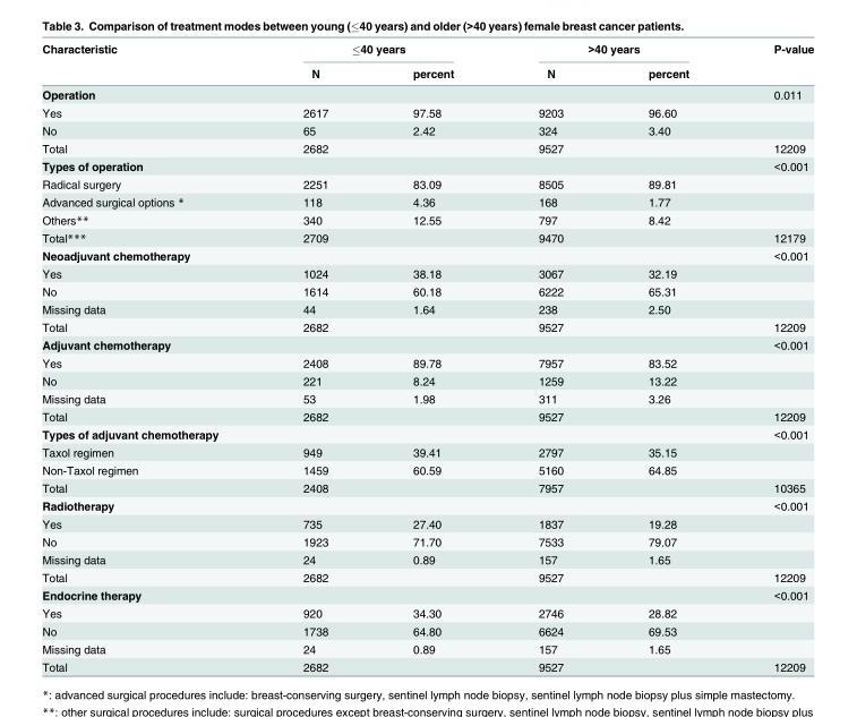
<table><thead><tr><td rowspan="2">Characteristic</td><td colspan="2">≤40 years</td><td colspan="2">&gt;40 years</td><td rowspan="2">P-value</td></tr><tr><td>N</td><td>percent</td><td>N</td><td>percent</td></tr></thead><tbody><tr><td>Operation</td><td></td><td></td><td></td><td></td><td>0.011</td></tr><tr><td>Yes</td><td>2617</td><td>97.58</td><td>9203</td><td>96.60</td><td></td></tr><tr><td>No</td><td>65</td><td>2.42</td><td>324</td><td>3.40</td><td></td></tr><tr><td>Total</td><td>2682</td><td></td><td>9527</td><td></td><td>12209</td></tr><tr><td>Types of operation</td><td></td><td></td><td></td><td></td><td>&lt;0.001</td></tr><tr><td>Radical surgery</td><td>2251</td><td>83.09</td><td>8505</td><td>89.81</td><td></td></tr><tr><td>Advanced surgical options *</td><td>118</td><td>4.36</td><td>168</td><td>1.77</td><td></td></tr><tr><td>Others**</td><td>340</td><td>12.55</td><td>797</td><td>8.42</td><td></td></tr><tr><td>Total***</td><td>2709</td><td></td><td>9470</td><td></td><td>12179</td></tr><tr><td>Neoadjuvant chemotherapy</td><td></td><td></td><td></td><td></td><td>&lt;0.001</td></tr><tr><td>Yes</td><td>1024</td><td>38.18</td><td>3067</td><td>32.19</td><td></td></tr><tr><td>No</td><td>1614</td><td>60.18</td><td>6222</td><td>65.31</td><td></td></tr><tr><td>Missing data</td><td>44</td><td>1.64</td><td>238</td><td>2.50</td><td></td></tr><tr><td>Total</td><td>2682</td><td></td><td>9527</td><td></td><td>12209</td></tr><tr><td>Adjuvant chemotherapy</td><td></td><td></td><td></td><td></td><td>&lt;0.001</td></tr><tr><td>Yes</td><td>2408</td><td>89.78</td><td>7957</td><td>83.52</td><td></td></tr><tr><td>No</td><td>221</td><td>8.24</td><td>1259</td><td>13.22</td><td></td></tr><tr><td>Missing data</td><td>53</td><td>1.98</td><td>311</td><td>3.26</td><td></td></tr><tr><td>Total</td><td>2682</td><td></td><td>9527</td><td></td><td>12209</td></tr><tr><td>Types of adjuvant chemotherapy</td><td></td><td></td><td></td><td></td><td>&lt;0.001</td></tr><tr><td>Taxol regimen</td><td>949</td><td>39.41</td><td>2797</td><td>35.15</td><td></td></tr><tr><td>Non-Taxol regimen</td><td>1459</td><td>60.59</td><td>5160</td><td>64.85</td><td></td></tr><tr><td>Total</td><td>2408</td><td></td><td>7957</td><td></td><td>10365</td></tr><tr><td>Radiotherapy</td><td></td><td></td><td></td><td></td><td>&lt;0.001</td></tr><tr><td>Yes</td><td>735</td><td>27.40</td><td>1837</td><td>19.28</td><td></td></tr><tr><td>No</td><td>1923</td><td>71.70</td><td>7533</td><td>79.07</td><td></td></tr><tr><td>Missing data</td><td>24</td><td>0.89</td><td>157</td><td>1.65</td><td></td></tr><tr><td>Total</td><td>2682</td><td></td><td>9527</td><td></td><td>12209</td></tr><tr><td>Endocrine therapy</td><td></td><td></td><td></td><td></td><td>&lt;0.001</td></tr><tr><td>Yes</td><td>920</td><td>34.30</td><td>2746</td><td>28.82</td><td></td></tr><tr><td>No</td><td>1738</td><td>64.80</td><td>6624</td><td>69.53</td><td></td></tr><tr><td>Missing data</td><td>24</td><td>0.89</td><td>157</td><td>1.65</td><td></td></tr><tr><td>Total</td><td>2682</td><td></td><td>9527</td><td></td><td>12209</td></tr></tbody></table>